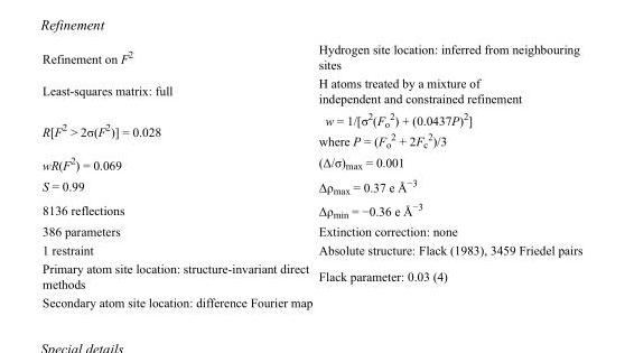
<table><tbody><tr><td>Refinement on F<sup>2</sup></td><td>Hydrogen site location: inferred from neighbouring sites</td></tr><tr><td>Least-squares matrix: full</td><td>H atoms treated by a mixture of independent and constrained refinement</td></tr><tr><td>R[F<sup>2</sup> &gt; 2σ(F<sup>2</sup>)] = 0.028</td><td>w = 1/[σ<sup>2</sup>(F<sub>o</sub> <sup>2</sup>) + (0.0437P)<sup>2</sup>] where P = (F<sub>o</sub> <sup>2</sup> + 2F<sub>c</sub> <sup>2</sup>)/3</td></tr><tr><td>wR(F<sup>2</sup>) = 0.069</td><td>(Δ/σ)<sub>max</sub> = 0.001</td></tr><tr><td>S = 0.99</td><td>Δρ<sub>max</sub> = 0.37 e Å<sup>−3</sup></td></tr><tr><td>8136 reflections</td><td>Δρ<sub>min</sub> = −0.36 e Å<sup>−3</sup></td></tr><tr><td>386 parameters</td><td>Extinction correction: none</td></tr><tr><td>1 restraint</td><td>Absolute structure: Flack (1983), 3459 Friedel pairs</td></tr><tr><td>Primary atom site location: structure-invariant direct methods</td><td>Flack parameter: 0.03 (4)</td></tr><tr><td>Secondary atom site location: difference Fourier map</td><td></td></tr></tbody></table>